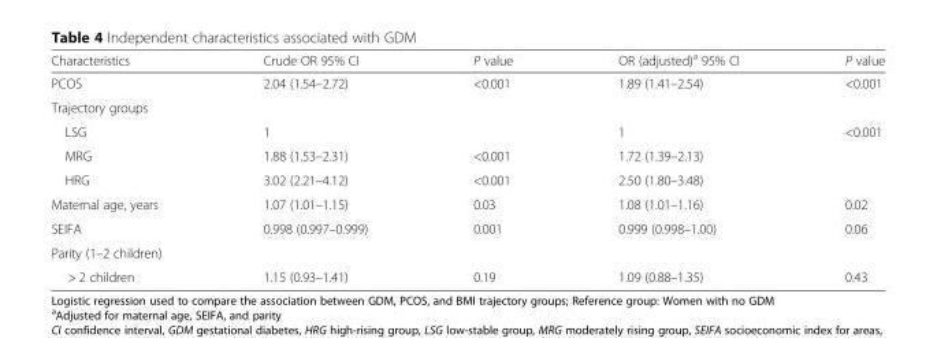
<table><thead><tr><td>Characteristics</td><td>Crude OR 95% CI</td><td>P value</td><td>OR (adjusted)<sup>a</sup> 95% CI</td><td>P value</td></tr></thead><tbody><tr><td>PCOS</td><td>2.04 (1.54–2.72)</td><td>&lt;0.001</td><td>1.89 (1.41–2.54)</td><td>&lt;0.001</td></tr><tr><td colspan="5">Trajectory groups</td></tr><tr><td>LSG</td><td>1</td><td></td><td>1</td><td>&lt;0.001</td></tr><tr><td>MRG</td><td>1.88 (1.53–2.31)</td><td>&lt;0.001</td><td>1.72 (1.39–2.13)</td><td></td></tr><tr><td>HRG</td><td>3.02 (2.21–4.12)</td><td>&lt;0.001</td><td>2.50 (1.80–3.48)</td><td></td></tr><tr><td>Maternal age, years</td><td>1.07 (1.01–1.15)</td><td>0.03</td><td>1.08 (1.01–1.16)</td><td>0.02</td></tr><tr><td>SEIFA</td><td>0.998 (0.997–0.999)</td><td>0.001</td><td>0.999 (0.998–1.00)</td><td>0.06</td></tr><tr><td colspan="5">Parity (1–2 children)</td></tr><tr><td>&gt; 2 children</td><td>1.15 (0.93–1.41)</td><td>0.19</td><td>1.09 (0.88–1.35)</td><td>0.43</td></tr></tbody></table>